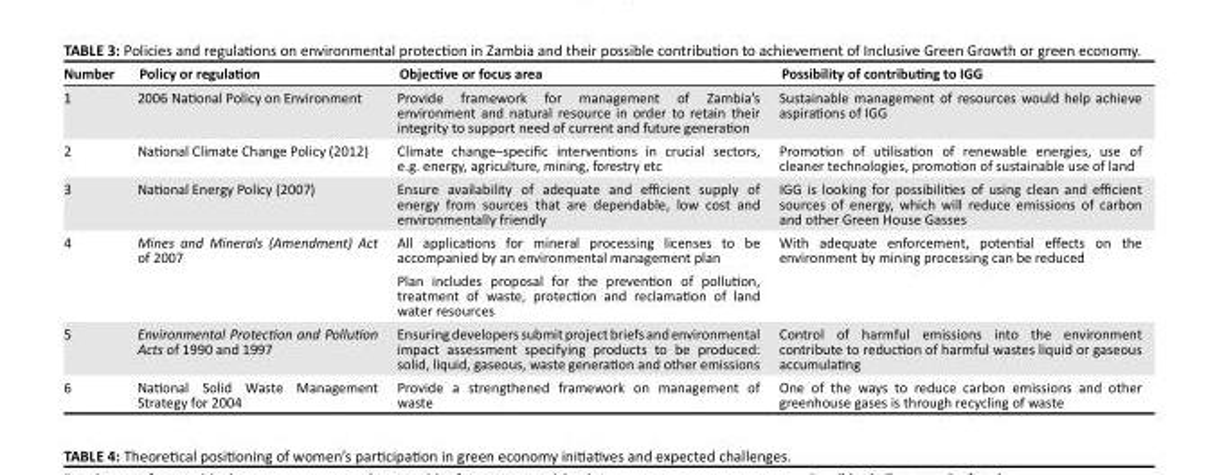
<table><thead><tr><td>Number</td><td>Policy or regulation</td><td>Objective or focus area</td><td>Possibility of contributing to IGG</td></tr></thead><tbody><tr><td>1</td><td>2006 National Policy on Environment</td><td>Provide framework for management of Zambia’s environment and natural resource in order to retain their integrity to support need of current and future generation</td><td>Sustainable management of resources would help achieve aspirations of IGG</td></tr><tr><td>2</td><td>National Climate Change Policy (2012)</td><td>Climate change–specific interventions in crucial sectors, e.g. energy, agriculture, mining, forestry etc</td><td>Promotion of utilisation of renewable energies, use of cleaner technologies, promotion of sustainable use of land</td></tr><tr><td>3</td><td>National Energy Policy (2007)</td><td>Ensure availability of adequate and efficient supply of energy from sources that are dependable, low cost and environmentally friendly</td><td>IGG is looking for possibilities of using clean and efficient sources of energy, which will reduce emissions of carbon and other Green House Gasses</td></tr><tr><td rowspan="2">4</td><td rowspan="2">Mines and Minerals (Amendment) Act of 2007</td><td>All applications for mineral processing licenses to be accompanied by an environmental management plan</td><td rowspan="2">With adequate enforcement, potential effects on the environment by mining processing can be reduced</td></tr><tr><td>Plan includes proposal for the prevention of pollution, treatment of waste, protection and reclamation of land water resources</td></tr><tr><td>5</td><td>Environmental Protection and Pollution Acts of 1990 and 1997</td><td>Ensuring developers submit project briefs and environmental impact assessment specifying products to be produced: solid, liquid, gaseous, waste generation and other emissions</td><td>Control of harmful emissions into the environment contribute to reduction of harmful wastes liquid or gaseous accumulating</td></tr><tr><td>6</td><td>National Solid Waste Management Strategy for 2004</td><td>Provide a strengthened framework on management of waste</td><td>One of the ways to reduce carbon emissions and other greenhouse gases is through recycling of waste</td></tr></tbody></table>